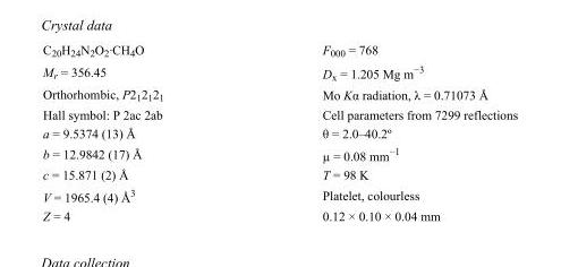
<table><tbody><tr><td>C<sub>20</sub>H<sub>24</sub>N<sub>2</sub>O<sub>2</sub>·CH<sub>4</sub>O</td><td>F000 = 768</td></tr><tr><td>M<sub>r</sub> = 356.45</td><td>D<sub>x</sub> = 1.205 Mg m<sup>−3</sup></td></tr><tr><td>Orthorhombic, P2<sub>1</sub>2<sub>1</sub>2<sub>1</sub></td><td>Mo Kα radiation, λ = 0.71073 Å</td></tr><tr><td>Hall symbol: P 2ac 2ab</td><td>Cell parameters from 7299 reflections</td></tr><tr><td>a = 9.5374 (13) Å</td><td>θ = 2.0–40.2º</td></tr><tr><td>b = 12.9842 (17) Å</td><td>µ = 0.08 mm<sup>−1</sup></td></tr><tr><td>c = 15.871 (2) Å</td><td>T = 98 K</td></tr><tr><td>V = 1965.4 (4) Å<sup>3</sup></td><td>Platelet, colourless</td></tr><tr><td>Z = 4</td><td>0.12 × 0.10 × 0.04 mm</td></tr></tbody></table>